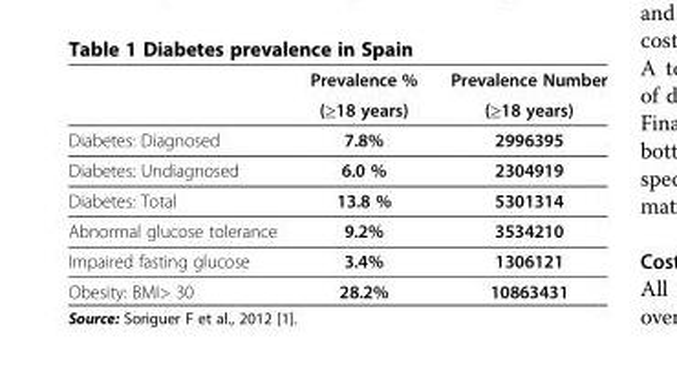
<table><thead><tr><td rowspan="2"></td><td rowspan="2">Prevalence % (≥18 years)</td><td rowspan="2">Prevalence Number (≥18 years)</td></tr><tr></tr></thead><tbody><tr><td>Diabetes: Diagnosed</td><td>7.8%</td><td>2996395</td></tr><tr><td>Diabetes: Undiagnosed</td><td>6.0 %</td><td>2304919</td></tr><tr><td>Diabetes: Total</td><td>13.8 %</td><td>5301314</td></tr><tr><td>Abnormal glucose tolerance</td><td>9.2%</td><td>3534210</td></tr><tr><td>Impaired fasting glucose</td><td>3.4%</td><td>1306121</td></tr><tr><td>Obesity: BMI&gt; 30</td><td>28.2%</td><td>10863431</td></tr></tbody></table>